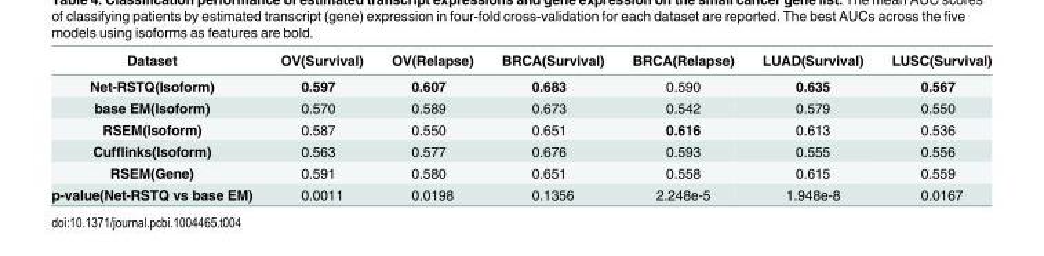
<table><thead><tr><td>Dataset</td><td>OV(Survival)</td><td>OV(Relapse)</td><td>BRCA(Survival)</td><td>BRCA(Relapse)</td><td>LUAD(Survival)</td><td>LUSC(Survival)</td></tr></thead><tbody><tr><td>Net-RSTQ(Isoform)</td><td>0.597</td><td>0.607</td><td>0.683</td><td>0.590</td><td>0.635</td><td>0.567</td></tr><tr><td>base EM(Isoform)</td><td>0.570</td><td>0.589</td><td>0.673</td><td>0.542</td><td>0.579</td><td>0.550</td></tr><tr><td>RSEM(Isoform)</td><td>0.587</td><td>0.550</td><td>0.651</td><td>0.616</td><td>0.613</td><td>0.536</td></tr><tr><td>Cufflinks(Isoform)</td><td>0.563</td><td>0.577</td><td>0.676</td><td>0.593</td><td>0.555</td><td>0.556</td></tr><tr><td>RSEM(Gene)</td><td>0.591</td><td>0.580</td><td>0.651</td><td>0.558</td><td>0.615</td><td>0.559</td></tr><tr><td>p-value(Net-RSTQ vs base EM)</td><td>0.0011</td><td>0.0198</td><td>0.1356</td><td>2.248e-5</td><td>1.948e-8</td><td>0.0167</td></tr></tbody></table>